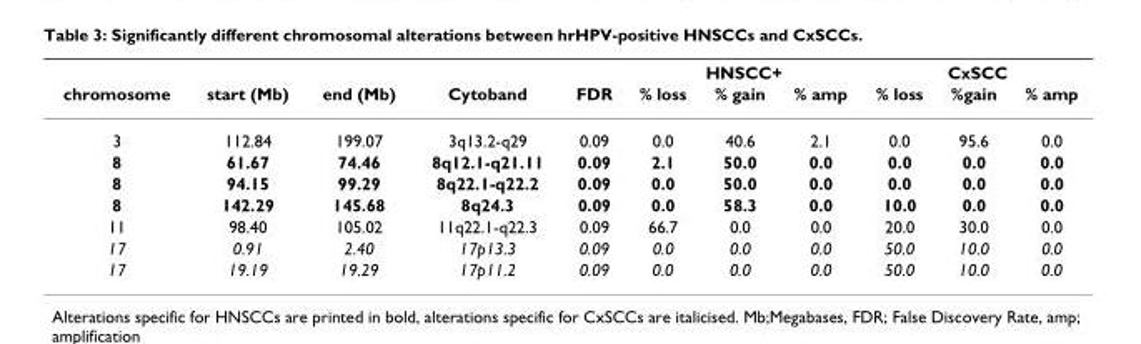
<table><thead><tr><td rowspan="2">chromosome</td><td rowspan="2">start (Mb)</td><td rowspan="2">end (Mb)</td><td rowspan="2">Cytoband</td><td rowspan="2">FDR</td><td colspan="3">HNSCC+</td><td colspan="3">CxSCC</td></tr><tr><td>% loss</td><td>% gain</td><td>% amp</td><td>% loss</td><td>%gain</td><td>% amp</td></tr></thead><tbody><tr><td>3</td><td>112.84</td><td>199.07</td><td>3q13.2-q29</td><td>0.09</td><td>0.0</td><td>40.6</td><td>2.1</td><td>0.0</td><td>95.6</td><td>0.0</td></tr><tr><td>8</td><td>61.67</td><td>74.46</td><td>8q12.1-q21.11</td><td>0.09</td><td>2.1</td><td>50.0</td><td>0.0</td><td>0.0</td><td>0.0</td><td>0.0</td></tr><tr><td>8</td><td>94.15</td><td>99.29</td><td>8q22.1-q22.2</td><td>0.09</td><td>0.0</td><td>50.0</td><td>0.0</td><td>0.0</td><td>0.0</td><td>0.0</td></tr><tr><td>8</td><td>142.29</td><td>145.68</td><td>8q24.3</td><td>0.09</td><td>0.0</td><td>58.3</td><td>0.0</td><td>10.0</td><td>0.0</td><td>0.0</td></tr><tr><td>11</td><td>98.40</td><td>105.02</td><td>11q22.1-q22.3</td><td>0.09</td><td>66.7</td><td>0.0</td><td>0.0</td><td>20.0</td><td>30.0</td><td>0.0</td></tr><tr><td>17</td><td>0.91</td><td>2.40</td><td>17p13.3</td><td>0.09</td><td>0.0</td><td>0.0</td><td>0.0</td><td>50.0</td><td>10.0</td><td>0.0</td></tr><tr><td>17</td><td>19.19</td><td>19.29</td><td>17p11.2</td><td>0.09</td><td>0.0</td><td>0.0</td><td>0.0</td><td>50.0</td><td>10.0</td><td>0.0</td></tr></tbody></table>